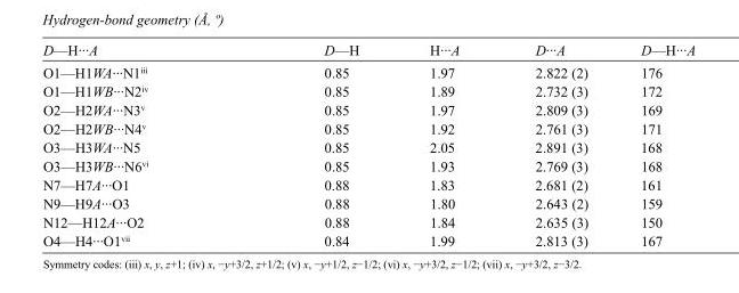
<table><tbody><tr><td>D—H···A</td><td>D—H</td><td>H···A</td><td>D···A</td><td>D—H···A</td></tr><tr><td>O1—H1WA···N1<sup>iii</sup></td><td>0.85</td><td>1.97</td><td>2.822 (2)</td><td>176</td></tr><tr><td>O1—H1WB···N2<sup>iv</sup></td><td>0.85</td><td>1.89</td><td>2.732 (3)</td><td>172</td></tr><tr><td>O2—H2WA···N3<sup>v</sup></td><td>0.85</td><td>1.97</td><td>2.809 (3)</td><td>169</td></tr><tr><td>O2—H2WB···N4<sup>v</sup></td><td>0.85</td><td>1.92</td><td>2.761 (3)</td><td>171</td></tr><tr><td>O3—H3WA···N5</td><td>0.85</td><td>2.05</td><td>2.891 (3)</td><td>168</td></tr><tr><td>O3—H3WB···N6<sup>vi</sup></td><td>0.85</td><td>1.93</td><td>2.769 (3)</td><td>168</td></tr><tr><td>N7—H7A···O1</td><td>0.88</td><td>1.83</td><td>2.681 (2)</td><td>161</td></tr><tr><td>N9—H9A···O3</td><td>0.88</td><td>1.80</td><td>2.643 (2)</td><td>159</td></tr><tr><td>N12—H12A···O2</td><td>0.88</td><td>1.84</td><td>2.635 (3)</td><td>150</td></tr><tr><td>O4—H4···O1<sup>vii</sup></td><td>0.84</td><td>1.99</td><td>2.813 (3)</td><td>167</td></tr></tbody></table>